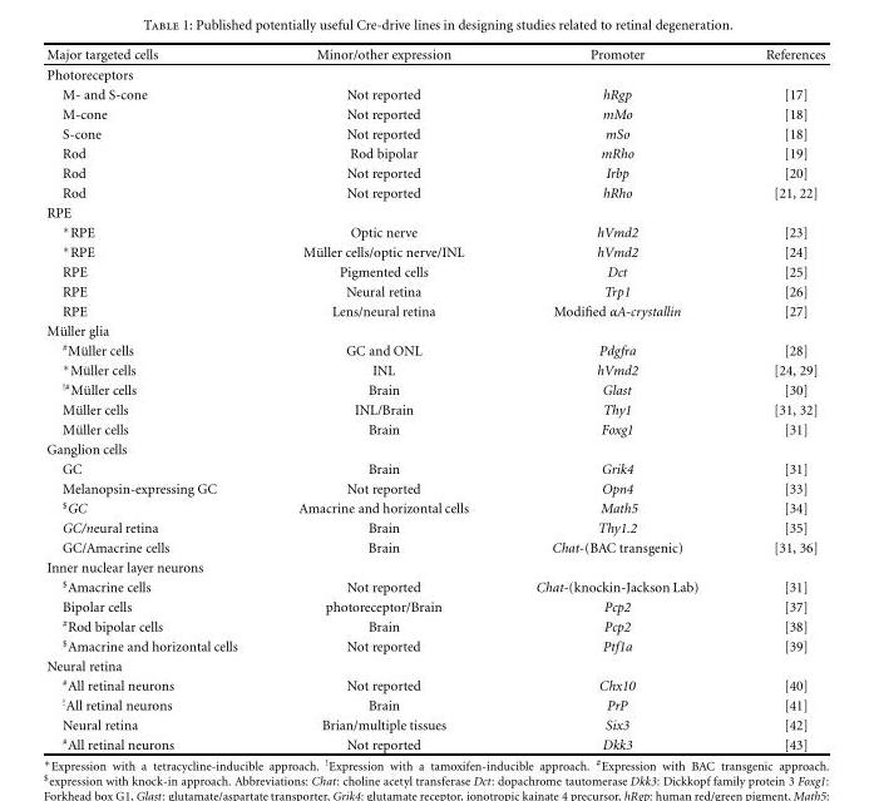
<table><thead><tr><td>Major targeted cells</td><td>Minor/other expression</td><td>Promoter</td><td>References</td></tr></thead><tbody><tr><td colspan="4">Photoreceptors</td></tr><tr><td>M- and S-cone</td><td>Not reported</td><td>hRgp</td><td>[17]</td></tr><tr><td>M-cone</td><td>Not reported</td><td>mMo</td><td>[18]</td></tr><tr><td>S-cone</td><td>Not reported</td><td>mSo</td><td>[18]</td></tr><tr><td>Rod</td><td>Rod bipolar</td><td>mRho</td><td>[19]</td></tr><tr><td>Rod</td><td>Not reported</td><td>Irbp</td><td>[20]</td></tr><tr><td>Rod</td><td>Not reported</td><td>hRho</td><td>[21, 22]</td></tr><tr><td colspan="4">RPE</td></tr><tr><td>∗RPE</td><td>Optic nerve</td><td>hVmd2</td><td>[23]</td></tr><tr><td>∗RPE</td><td>M¨uller cells/optic nerve/INL</td><td>hVmd2</td><td>[24]</td></tr><tr><td>RPE</td><td>Pigmented cells</td><td>Dct</td><td>[25]</td></tr><tr><td>RPE</td><td>Neural retina</td><td>Trp1</td><td>[26]</td></tr><tr><td>RPE</td><td>Lens/neural retina</td><td>Modified αA-crystallin</td><td>[27]</td></tr><tr><td colspan="4">M¨uller glia</td></tr><tr><td>#M¨uller cells</td><td>GC and ONL</td><td>Pdgfra</td><td>[28]</td></tr><tr><td>∗M¨uller cells</td><td>INL</td><td>hVmd2</td><td>[24, 29]</td></tr><tr><td>!#M¨uller cells</td><td>Brain</td><td>Glast</td><td>[30]</td></tr><tr><td>M¨uller cells</td><td>INL/Brain</td><td>Thy1</td><td>[31, 32]</td></tr><tr><td>M¨uller cells</td><td>Brain</td><td>Foxg1</td><td>[31]</td></tr><tr><td colspan="4">Ganglion cells</td></tr><tr><td>GC</td><td>Brain</td><td>Grik4</td><td>[31]</td></tr><tr><td>Melanopsin-expressing GC</td><td>Not reported</td><td>Opn4</td><td>[33]</td></tr><tr><td><sup>$</sup>GC</td><td>Amacrine and horizontal cells</td><td>Math5</td><td>[34]</td></tr><tr><td>GC/neural retina</td><td>Brain</td><td>Thy1.2</td><td>[35]</td></tr><tr><td>GC/Amacrine cells</td><td>Brain</td><td>Chat-(BAC transgenic)</td><td>[31, 36]</td></tr><tr><td colspan="4">Inner nuclear layer neurons</td></tr><tr><td><sup>$</sup>Amacrine cells</td><td>Not reported</td><td>Chat-(knockin-Jackson Lab)</td><td>[31]</td></tr><tr><td>Bipolar cells</td><td>photoreceptor/Brain</td><td>Pcp2</td><td>[37]</td></tr><tr><td><sup>#</sup>Rod bipolar cells</td><td>Brain</td><td>Pcp2</td><td>[38]</td></tr><tr><td><sup>$</sup>Amacrine and horizontal cells</td><td>Not reported</td><td>Ptf1a</td><td>[39]</td></tr><tr><td colspan="4">Neural retina</td></tr><tr><td><sup>#</sup>All retinal neurons</td><td>Not reported</td><td>Chx10</td><td>[40]</td></tr><tr><td><sup>!</sup>All retinal neurons</td><td>Brain</td><td>PrP</td><td>[41]</td></tr><tr><td>Neural retina</td><td>Brian/multiple tissues</td><td>Six3</td><td>[42]</td></tr><tr><td><sup>#</sup>All retinal neurons</td><td>Not reported</td><td>Dkk3</td><td>[43]</td></tr></tbody></table>